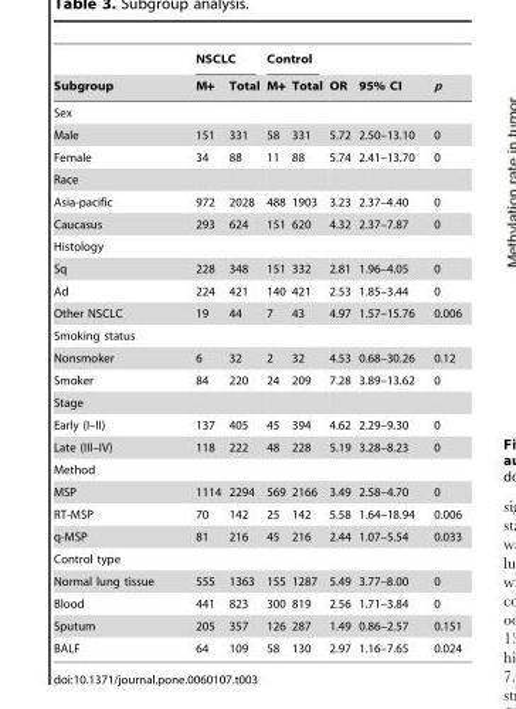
<table><thead><tr><td rowspan="2">Subgroup</td><td colspan="2">NSCLC</td><td colspan="2">Control</td><td rowspan="2">OR</td><td rowspan="2">95% CI</td><td rowspan="2">p</td></tr><tr><td>M+</td><td>Total</td><td>M+</td><td>Total</td></tr></thead><tbody><tr><td colspan="8">Sex</td></tr><tr><td>Male</td><td>151</td><td>331</td><td>58</td><td>331</td><td>5.72</td><td>2.50–13.10</td><td>0</td></tr><tr><td>Female</td><td>34</td><td>88</td><td>11</td><td>88</td><td>5.74</td><td>2.41–13.70</td><td>0</td></tr><tr><td colspan="8">Race</td></tr><tr><td>Asia-pacific</td><td>972</td><td>2028</td><td>488</td><td>1903</td><td>3.23</td><td>2.37–4.40</td><td>0</td></tr><tr><td>Caucasus</td><td>293</td><td>624</td><td>151</td><td>620</td><td>4.32</td><td>2.37–7.87</td><td>0</td></tr><tr><td colspan="8">Histology</td></tr><tr><td>Sq</td><td>228</td><td>348</td><td>151</td><td>332</td><td>2.81</td><td>1.96–4.05</td><td>0</td></tr><tr><td>Ad</td><td>224</td><td>421</td><td>140</td><td>421</td><td>2.53</td><td>1.85–3.44</td><td>0</td></tr><tr><td>Other NSCLC</td><td>19</td><td>44</td><td>7</td><td>43</td><td>4.97</td><td>1.57–15.76</td><td>0.006</td></tr><tr><td colspan="8">Smoking status</td></tr><tr><td>Nonsmoker</td><td>6</td><td>32</td><td>2</td><td>32</td><td>4.53</td><td>0.68–30.26</td><td>0.12</td></tr><tr><td>Smoker</td><td>84</td><td>220</td><td>24</td><td>209</td><td>7.28</td><td>3.89–13.62</td><td>0</td></tr><tr><td colspan="8">Stage</td></tr><tr><td>Early (I–II)</td><td>137</td><td>405</td><td>45</td><td>394</td><td>4.62</td><td>2.29–9.30</td><td>0</td></tr><tr><td>Late (III–IV)</td><td>118</td><td>222</td><td>48</td><td>228</td><td>5.19</td><td>3.28–8.23</td><td>0</td></tr><tr><td colspan="8">Method</td></tr><tr><td>MSP</td><td>1114</td><td>2294</td><td>569</td><td>2166</td><td>3.49</td><td>2.58–4.70</td><td>0</td></tr><tr><td>RT-MSP</td><td>70</td><td>142</td><td>25</td><td>142</td><td>5.58</td><td>1.64–18.94</td><td>0.006</td></tr><tr><td>q-MSP</td><td>81</td><td>216</td><td>45</td><td>216</td><td>2.44</td><td>1.07–5.54</td><td>0.033</td></tr><tr><td colspan="8">Control type</td></tr><tr><td>Normal lung tissue</td><td>555</td><td>1363</td><td>155</td><td>1287</td><td>5.49</td><td>3.77–8.00</td><td>0</td></tr><tr><td>Blood</td><td>441</td><td>823</td><td>300</td><td>819</td><td>2.56</td><td>1.71–3.84</td><td>0</td></tr><tr><td>Sputum</td><td>205</td><td>357</td><td>126</td><td>287</td><td>1.49</td><td>0.86–2.57</td><td>0.151</td></tr><tr><td>BALF</td><td>64</td><td>109</td><td>58</td><td>130</td><td>2.97</td><td>1.16–7.65</td><td>0.024</td></tr></tbody></table>